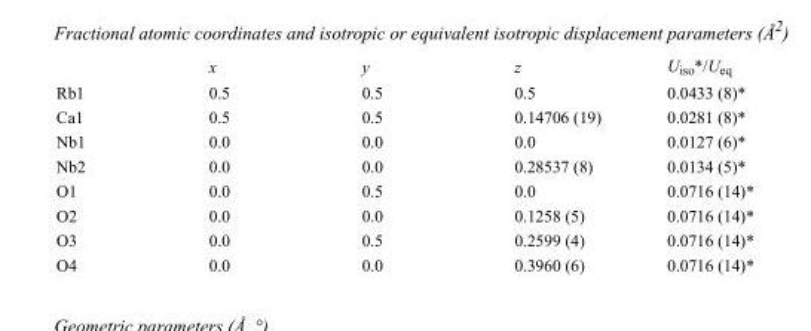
<table><thead><tr><td></td><td>x</td><td>y</td><td>z</td><td>U<sub>iso</sub>*/U<sub>eq</sub></td></tr></thead><tbody><tr><td>Rb1</td><td>0.5</td><td>0.5</td><td>0.5</td><td>0.0433 (8)*</td></tr><tr><td>Ca1</td><td>0.5</td><td>0.5</td><td>0.14706 (19)</td><td>0.0281 (8)*</td></tr><tr><td>Nb1</td><td>0.0</td><td>0.0</td><td>0.0</td><td>0.0127 (6)*</td></tr><tr><td>Nb2</td><td>0.0</td><td>0.0</td><td>0.28537 (8)</td><td>0.0134 (5)*</td></tr><tr><td>O1</td><td>0.0</td><td>0.5</td><td>0.0</td><td>0.0716 (14)*</td></tr><tr><td>O2</td><td>0.0</td><td>0.0</td><td>0.1258 (5)</td><td>0.0716 (14)*</td></tr><tr><td>O3</td><td>0.0</td><td>0.5</td><td>0.2599 (4)</td><td>0.0716 (14)*</td></tr><tr><td>O4</td><td>0.0</td><td>0.0</td><td>0.3960 (6)</td><td>0.0716 (14)*</td></tr></tbody></table>